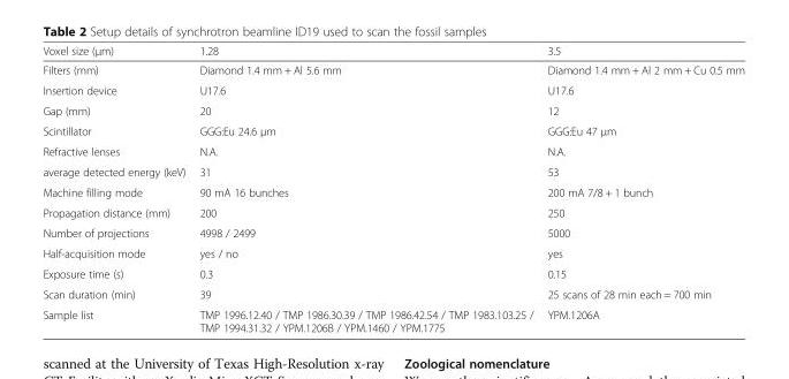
<table><thead><tr><td>Voxel size (μm)</td><td>1.28</td><td>3.5</td></tr></thead><tbody><tr><td>Filters (mm)</td><td>Diamond 1.4 mm + Al 5.6 mm</td><td>Diamond 1.4 mm + Al 2 mm + Cu 0.5 mm</td></tr><tr><td>Insertion device</td><td>U17.6</td><td>U17.6</td></tr><tr><td>Gap (mm)</td><td>20</td><td>12</td></tr><tr><td>Scintillator</td><td>GGG:Eu 24.6 μm</td><td>GGG:Eu 47 μm</td></tr><tr><td>Refractive lenses</td><td>N.A.</td><td>N.A.</td></tr><tr><td>average detected energy (keV)</td><td>31</td><td>53</td></tr><tr><td>Machine filling mode</td><td>90 mA 16 bunches</td><td>200 mA 7/8 + 1 bunch</td></tr><tr><td>Propagation distance (mm)</td><td>200</td><td>250</td></tr><tr><td>Number of projections</td><td>4998 / 2499</td><td>5000</td></tr><tr><td>Half-acquisition mode</td><td>yes / no</td><td>yes</td></tr><tr><td>Exposure time (s)</td><td>0.3</td><td>0.15</td></tr><tr><td>Scan duration (min)</td><td>39</td><td>25 scans of 28 min each = 700 min</td></tr><tr><td>Sample list</td><td>TMP 1996.12.40 / TMP 1986.30.39 / TMP 1986.42.54 / TMP 1983.103.25 / TMP 1994.31.32 / YPM.1206B / YPM.1460 / YPM.1775</td><td>YPM.1206A</td></tr></tbody></table>